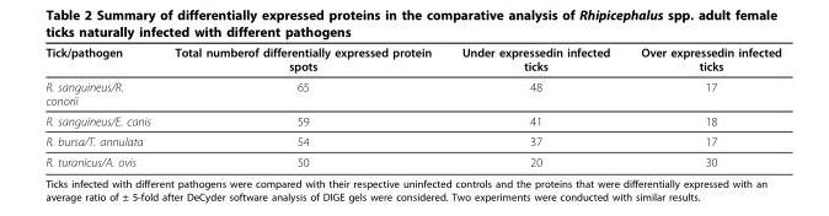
<table><thead><tr><td>Tick/pathogen</td><td>Total numberof differentially expressed protein spots</td><td>Under expressedin infected ticks</td><td>Over expressedin infected ticks</td></tr></thead><tbody><tr><td>R. sanguineus/R. conorii</td><td>65</td><td>48</td><td>17</td></tr><tr><td>R. sanguineus/E. canis</td><td>59</td><td>41</td><td>18</td></tr><tr><td>R. bursa/T. annulata</td><td>54</td><td>37</td><td>17</td></tr><tr><td>R. turanicus/A. ovis</td><td>50</td><td>20</td><td>30</td></tr></tbody></table>